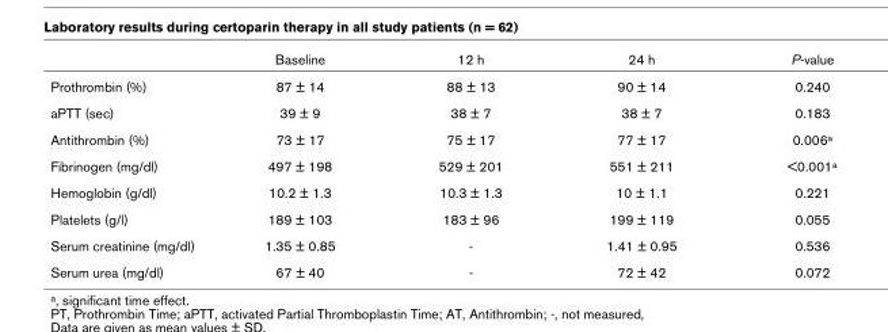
<table><thead><tr><td></td><td>Baseline</td><td>12 h</td><td>24 h</td><td>P-value</td></tr></thead><tbody><tr><td>Prothrombin (%)</td><td>87 ± 14</td><td>88 ± 13</td><td>90 ± 14</td><td>0.240</td></tr><tr><td>aPTT (sec)</td><td>39 ± 9</td><td>38 ± 7</td><td>38 ± 7</td><td>0.183</td></tr><tr><td>Antithrombin (%)</td><td>73 ± 17</td><td>75 ± 17</td><td>77 ± 17</td><td>0.006a</td></tr><tr><td>Fibrinogen (mg/dl)</td><td>497 ± 198</td><td>529 ± 201</td><td>551 ± 211</td><td>&lt;0.001a</td></tr><tr><td>Hemoglobin (g/dl)</td><td>10.2 ± 1.3</td><td>10.3 ± 1.3</td><td>10 ± 1.1</td><td>0.221</td></tr><tr><td>Platelets (g/l)</td><td>189 ± 103</td><td>183 ± 96</td><td>199 ± 119</td><td>0.055</td></tr><tr><td>Serum creatinine (mg/dl)</td><td>1.35 ± 0.85</td><td>-</td><td>1.41 ± 0.95</td><td>0.536</td></tr><tr><td>Serum urea (mg/dl)</td><td>67 ± 40</td><td>-</td><td>72 ± 42</td><td>0.072</td></tr></tbody></table>